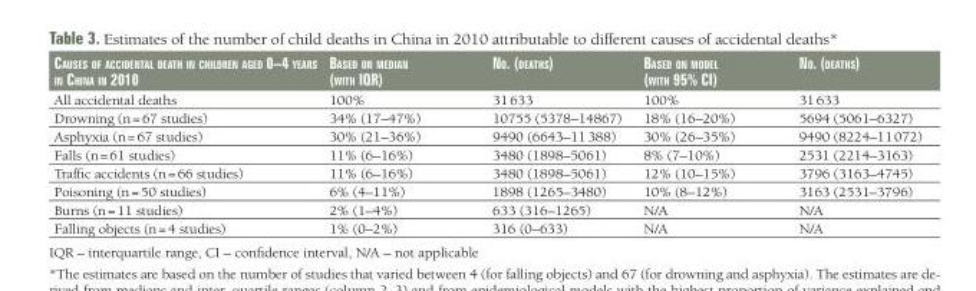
<table><thead><tr><td>causes of accidenTal deaTh in children aged 0–4 years in china in 2010</td><td>based on median (wiTh iQr)</td><td>no. (deaThs)</td><td>based on model (wiTh 95% ci)</td><td>no. (deaThs)</td></tr></thead><tbody><tr><td>All accidental deaths</td><td>100%</td><td>31 633</td><td>100%</td><td>31 633</td></tr><tr><td>Drowning (n = 67 studies)</td><td>34% (17–47%)</td><td>10755 (5378–14867)</td><td>18% (16–20%)</td><td>5694 (5061–6327)</td></tr><tr><td>Asphyxia (n = 67 studies)</td><td>30% (21–36%)</td><td>9490 (6643–11 388)</td><td>30% (26–35%)</td><td>9490 (8224–11 072)</td></tr><tr><td>Falls (n = 61 studies)</td><td>11% (6–16%)</td><td>3480 (1898–5061)</td><td>8% (7–10%)</td><td>2531 (2214–3163)</td></tr><tr><td>Traffic accidents (n = 66 studies)</td><td>11% (6–16%)</td><td>3480 (1898–5061)</td><td>12% (10–15%)</td><td>3796 (3163–4745)</td></tr><tr><td>Poisoning (n = 50 studies)</td><td>6% (4–11%)</td><td>1898 (1265–3480)</td><td>10% (8–12%)</td><td>3163 (2531–3796)</td></tr><tr><td>Burns (n = 11 studies)</td><td>2% (1–4%)</td><td>633 (316–1265)</td><td>N/A</td><td>N/A</td></tr><tr><td>Falling objects (n = 4 studies)</td><td>1% (0–2%)</td><td>316 (0–633)</td><td>N/A</td><td>N/A</td></tr></tbody></table>